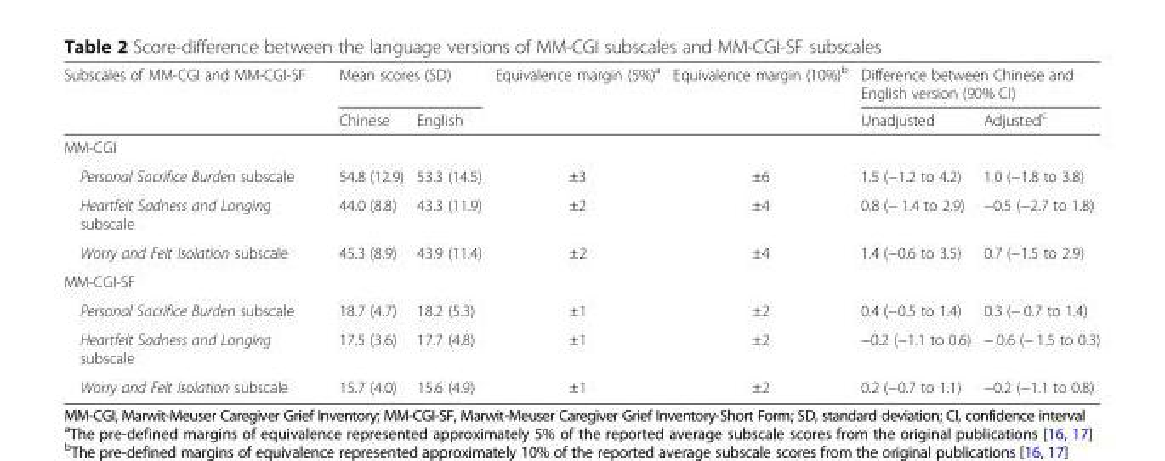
<table><thead><tr><td rowspan="2">Subscales of MM-CGI and MM-CGI-SF</td><td colspan="2">Mean scores (SD)</td><td rowspan="2">Equivalence margin (5%)<sup>a</sup></td><td rowspan="2">Equivalence margin (10%)<sup>b</sup></td><td colspan="2">Difference between Chinese and English version (90% CI)</td></tr><tr><td>Chinese</td><td>English</td><td>Unadjusted</td><td>Adjusted<sup>c</sup></td></tr></thead><tbody><tr><td colspan="7">MM-CGI</td></tr><tr><td>Personal Sacrifice Burden subscale</td><td>54.8 (12.9)</td><td>53.3 (14.5)</td><td>±3</td><td>±6</td><td>1.5 (−1.2 to 4.2)</td><td>1.0 (−1.8 to 3.8)</td></tr><tr><td>Heartfelt Sadness and Longing subscale</td><td>44.0 (8.8)</td><td>43.3 (11.9)</td><td>±2</td><td>±4</td><td>0.8 (− 1.4 to 2.9)</td><td>−0.5 (−2.7 to 1.8)</td></tr><tr><td>Worry and Felt Isolation subscale</td><td>45.3 (8.9)</td><td>43.9 (11.4)</td><td>±2</td><td>±4</td><td>1.4 (−0.6 to 3.5)</td><td>0.7 (−1.5 to 2.9)</td></tr><tr><td colspan="7">MM-CGI-SF</td></tr><tr><td>Personal Sacrifice Burden subscale</td><td>18.7 (4.7)</td><td>18.2 (5.3)</td><td>±1</td><td>±2</td><td>0.4 (−0.5 to 1.4)</td><td>0.3 (− 0.7 to 1.4)</td></tr><tr><td>Heartfelt Sadness and Longing subscale</td><td>17.5 (3.6)</td><td>17.7 (4.8)</td><td>±1</td><td>±2</td><td>−0.2 (−1.1 to 0.6)</td><td>− 0.6 (− 1.5 to 0.3)</td></tr><tr><td>Worry and Felt Isolation subscale</td><td>15.7 (4.0)</td><td>15.6 (4.9)</td><td>±1</td><td>±2</td><td>0.2 (−0.7 to 1.1)</td><td>−0.2 (−1.1 to 0.8)</td></tr></tbody></table>